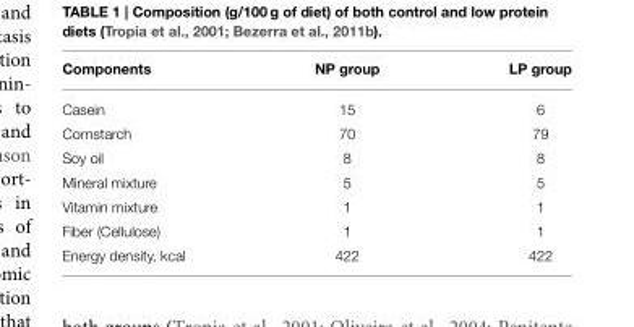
<table><thead><tr><td>Components</td><td>NP group</td><td>LP group</td></tr></thead><tbody><tr><td>Casein</td><td>15</td><td>6</td></tr><tr><td>Cornstarch</td><td>70</td><td>79</td></tr><tr><td>Soy oil</td><td>8</td><td>8</td></tr><tr><td>Mineral mixture</td><td>5</td><td>5</td></tr><tr><td>Vitamin mixture</td><td>1</td><td>1</td></tr><tr><td>Fiber (Cellulose)</td><td>1</td><td>1</td></tr><tr><td>Energy density, kcal</td><td>422</td><td>422</td></tr></tbody></table>